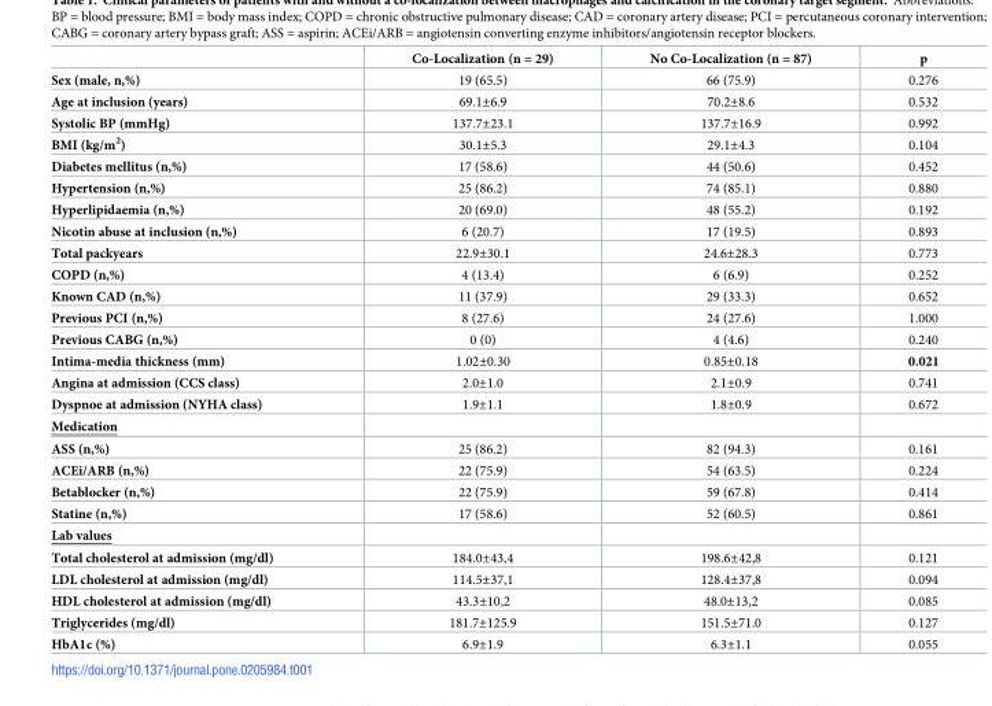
<table><thead><tr><td></td><td>Co-Localization (n = 29)</td><td>No Co-Localization (n = 87)</td><td>p</td></tr></thead><tbody><tr><td>Sex (male, n,%)</td><td>19 (65.5)</td><td>66 (75.9)</td><td>0.276</td></tr><tr><td>Age at inclusion (years)</td><td>69.1±6.9</td><td>70.2±8.6</td><td>0.532</td></tr><tr><td>Systolic BP (mmHg)</td><td>137.7±23.1</td><td>137.7±16.9</td><td>0.992</td></tr><tr><td>BMI (kg/m<sup>2</sup>)</td><td>30.1±5.3</td><td>29.1±4.3</td><td>0.104</td></tr><tr><td>Diabetes mellitus (n,%)</td><td>17 (58.6)</td><td>44 (50.6)</td><td>0.452</td></tr><tr><td>Hypertension (n,%)</td><td>25 (86.2)</td><td>74 (85.1)</td><td>0.880</td></tr><tr><td>Hyperlipidaemia (n,%)</td><td>20 (69.0)</td><td>48 (55.2)</td><td>0.192</td></tr><tr><td>Nicotin abuse at inclusion (n,%)</td><td>6 (20.7)</td><td>17 (19.5)</td><td>0.893</td></tr><tr><td>Total packyears</td><td>22.9±30.1</td><td>24.6±28.3</td><td>0.773</td></tr><tr><td>COPD (n,%)</td><td>4 (13.4)</td><td>6 (6.9)</td><td>0.252</td></tr><tr><td>Known CAD (n,%)</td><td>11 (37.9)</td><td>29 (33.3)</td><td>0.652</td></tr><tr><td>Previous PCI (n,%)</td><td>8 (27.6)</td><td>24 (27.6)</td><td>1.000</td></tr><tr><td>Previous CABG (n,%)</td><td>0 (0)</td><td>4 (4.6)</td><td>0.240</td></tr><tr><td>Intima-media thickness (mm)</td><td>1.02±0.30</td><td>0.85±0.18</td><td>0.021</td></tr><tr><td>Angina at admission (CCS class)</td><td>2.0±1.0</td><td>2.1±0.9</td><td>0.741</td></tr><tr><td>Dyspnoe at admission (NYHA class)</td><td>1.9±1.1</td><td>1.8±0.9</td><td>0.672</td></tr><tr><td colspan="4">Medication</td></tr><tr><td>ASS (n,%)</td><td>25 (86.2)</td><td>82 (94.3)</td><td>0.161</td></tr><tr><td>ACEi/ARB (n,%)</td><td>22 (75.9)</td><td>54 (63.5)</td><td>0.224</td></tr><tr><td>Betablocker (n,%)</td><td>22 (75.9)</td><td>59 (67.8)</td><td>0.414</td></tr><tr><td>Statine (n,%)</td><td>17 (58.6)</td><td>52 (60.5)</td><td>0.861</td></tr><tr><td colspan="4">Lab values</td></tr><tr><td>Total cholesterol at admission (mg/dl)</td><td>184.0±43,4</td><td>198.6±42,8</td><td>0.121</td></tr><tr><td>LDL cholesterol at admission (mg/dl)</td><td>114.5±37,1</td><td>128.4±37,8</td><td>0.094</td></tr><tr><td>HDL cholesterol at admission (mg/dl)</td><td>43.3±10,2</td><td>48.0±13,2</td><td>0.085</td></tr><tr><td>Triglycerides (mg/dl)</td><td>181.7±125.9</td><td>151.5±71.0</td><td>0.127</td></tr><tr><td>HbA1c (%)</td><td>6.9±1.9</td><td>6.3±1.1</td><td>0.055</td></tr></tbody></table>